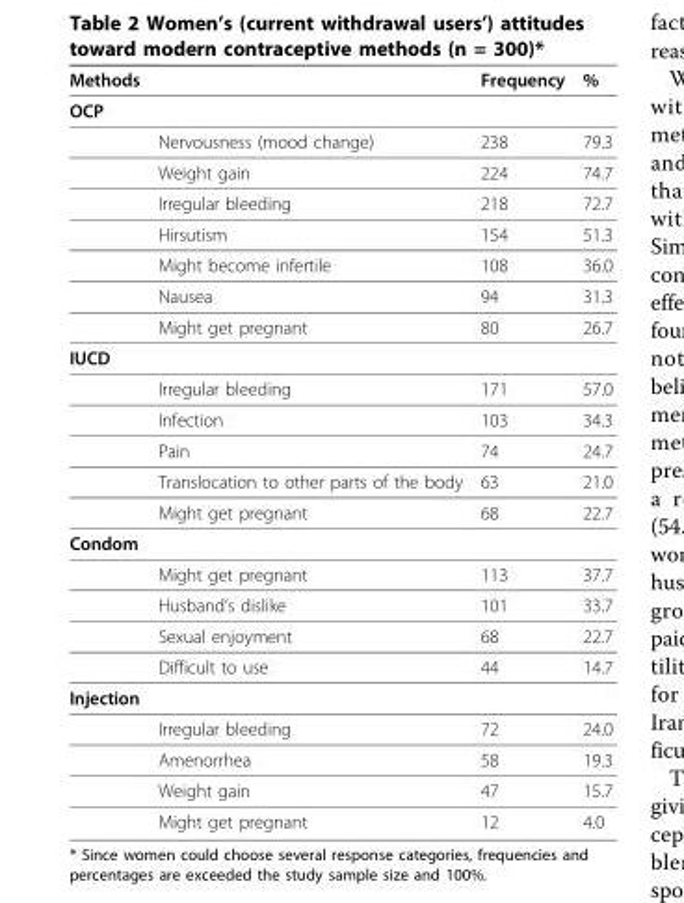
<table><thead><tr><td>Methods</td><td></td><td>Frequency</td><td>%</td></tr></thead><tbody><tr><td colspan="4">OCP</td></tr><tr><td></td><td>Nervousness (mood change)</td><td>238</td><td>79.3</td></tr><tr><td></td><td>Weight gain</td><td>224</td><td>74.7</td></tr><tr><td></td><td>Irregular bleeding</td><td>218</td><td>72.7</td></tr><tr><td></td><td>Hirsutism</td><td>154</td><td>51.3</td></tr><tr><td></td><td>Might become infertile</td><td>108</td><td>36.0</td></tr><tr><td></td><td>Nausea</td><td>94</td><td>31.3</td></tr><tr><td></td><td>Might get pregnant</td><td>80</td><td>26.7</td></tr><tr><td colspan="4">IUCD</td></tr><tr><td></td><td>Irregular bleeding</td><td>171</td><td>57.0</td></tr><tr><td></td><td>Infection</td><td>103</td><td>34.3</td></tr><tr><td></td><td>Pain</td><td>74</td><td>24.7</td></tr><tr><td></td><td>Translocation to other parts of the body</td><td>63</td><td>21.0</td></tr><tr><td></td><td>Might get pregnant</td><td>68</td><td>22.7</td></tr><tr><td colspan="4">Condom</td></tr><tr><td></td><td>Might get pregnant</td><td>113</td><td>37.7</td></tr><tr><td></td><td>Husband’s dislike</td><td>101</td><td>33.7</td></tr><tr><td></td><td>Sexual enjoyment</td><td>68</td><td>22.7</td></tr><tr><td></td><td>Difficult to use</td><td>44</td><td>14.7</td></tr><tr><td colspan="4">Injection</td></tr><tr><td></td><td>Irregular bleeding</td><td>72</td><td>24.0</td></tr><tr><td></td><td>Amenorrhea</td><td>58</td><td>19.3</td></tr><tr><td></td><td>Weight gain</td><td>47</td><td>15.7</td></tr><tr><td></td><td>Might get pregnant</td><td>12</td><td>4.0</td></tr></tbody></table>